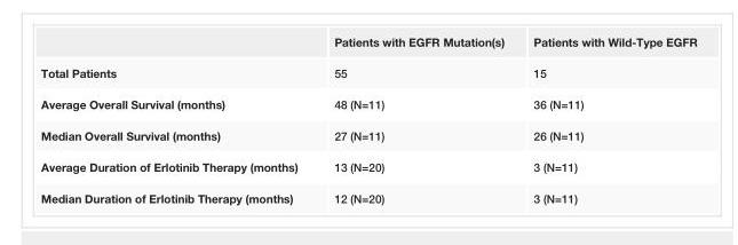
<table><thead><tr><td></td><td>Patients with EGFR Mutation(s)</td><td>Patients with Wild-Type EGFR</td></tr></thead><tbody><tr><td>Total Patients</td><td>55</td><td>15</td></tr><tr><td>Average Overall Survival (months)</td><td>48 (N=11)</td><td>36 (N=11)</td></tr><tr><td>Median Overall Survival (months)</td><td>27 (N=11)</td><td>26 (N=11)</td></tr><tr><td>Average Duration of Erlotinib Therapy (months)</td><td>13 (N=20)</td><td>3 (N=11)</td></tr><tr><td>Median Duration of Erlotinib Therapy (months)</td><td>12 (N=20)</td><td>3 (N=11)</td></tr></tbody></table>